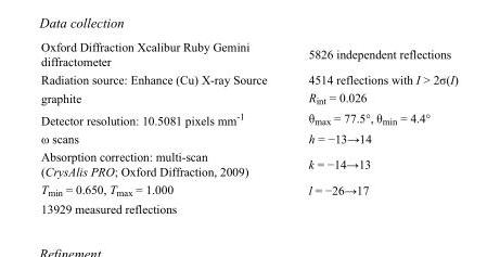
<table><tbody><tr><td>Oxford Diffraction Xcalibur Ruby Gemini diffractometer</td><td>5826 independent reflections</td></tr><tr><td>Radiation source: Enhance (Cu) X-ray Source</td><td>4514 reflections with I &gt; 2σ(I)</td></tr><tr><td>graphite</td><td>R<sub>int</sub> = 0.026</td></tr><tr><td>Detector resolution: 10.5081 pixels mm<sup>-1</sup></td><td>θ<sub>max</sub> = 77.5°, θ<sub>min</sub> = 4.4°</td></tr><tr><td>ω scans</td><td>h = −13→14</td></tr><tr><td>Absorption correction: multi-scan (CrysAlis PRO; Oxford Diffraction, 2009)</td><td>k = −14→13</td></tr><tr><td>T<sub>min</sub> = 0.650, T<sub>max</sub> = 1.000</td><td>l = −26→17</td></tr><tr><td>13929 measured reflections</td><td></td></tr></tbody></table>